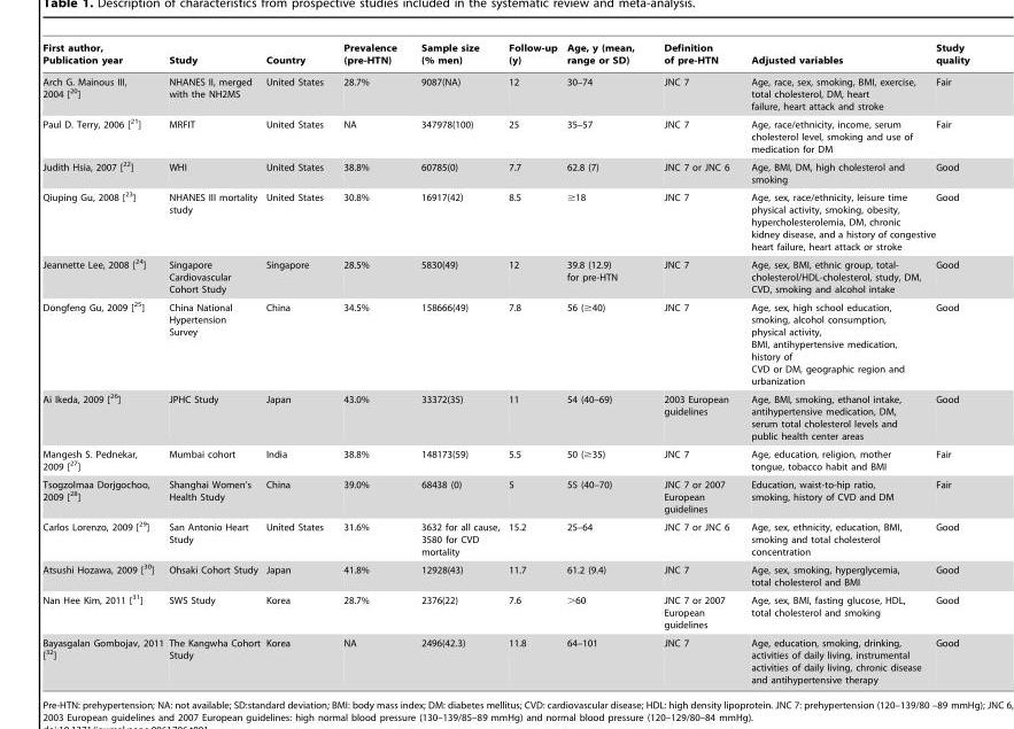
<table><thead><tr><td>First author, Publication year</td><td>Study</td><td>Country</td><td>Prevalence (pre-HTN)</td><td>Sample size (% men)</td><td>Follow-up (y)</td><td>Age, y (mean, range or SD)</td><td>Definition of pre-HTN</td><td>Adjusted variables</td><td>Study quality</td></tr></thead><tbody><tr><td>Arch G. Mainous III, 2004 [<sup>20</sup>]</td><td>NHANES II, merged with the NH2MS</td><td>United States</td><td>28.7%</td><td>9087(NA)</td><td>12</td><td>30–74</td><td>JNC 7</td><td>Age, race, sex, smoking, BMI, exercise, total cholesterol, DM, heart failure, heart attack and stroke</td><td>Fair</td></tr><tr><td>Paul D. Terry, 2006 [<sup>21</sup>]</td><td>MRFIT</td><td>United States</td><td>NA</td><td>347978(100)</td><td>25</td><td>35–57</td><td>JNC 7</td><td>Age, race/ethnicity, income, serum cholesterol level, smoking and use of medication for DM</td><td>Fair</td></tr><tr><td>Judith Hsia, 2007 [<sup>22</sup>]</td><td>WHI</td><td>United States</td><td>38.8%</td><td>60785(0)</td><td>7.7</td><td>62.8 (7)</td><td>JNC 7 or JNC 6</td><td>Age, BMI, DM, high cholesterol and smoking</td><td>Good</td></tr><tr><td>Qiuping Gu, 2008 [<sup>23</sup>]</td><td>NHANES III mortality study</td><td>United States</td><td>30.8%</td><td>16917(42)</td><td>8.5</td><td>≥18</td><td>JNC 7</td><td>Age, sex, race/ethnicity, leisure time physical activity, smoking, obesity, hypercholesterolemia, DM, chronic kidney disease, and a history of congestive heart failure, heart attack or stroke</td><td>Good</td></tr><tr><td>Jeannette Lee, 2008 [<sup>24</sup>]</td><td>Singapore Cardiovascular Cohort Study</td><td>Singapore</td><td>28.5%</td><td>5830(49)</td><td>12</td><td>39.8 (12.9) for pre-HTN</td><td>JNC 7</td><td>Age, sex, BMI, ethnic group, total- cholesterol/HDL-cholesterol, study, DM, CVD, smoking and alcohol intake</td><td>Good</td></tr><tr><td>Dongfeng Gu, 2009 [<sup>25</sup>]</td><td>China National Hypertension Survey</td><td>China</td><td>34.5%</td><td>158666(49)</td><td>7.8</td><td>56 (≥40)</td><td>JNC 7</td><td>Age, sex, high school education, smoking, alcohol consumption, physical activity, BMI, antihypertensive medication, history of CVD or DM, geographic region and urbanization</td><td>Good</td></tr><tr><td>Ai Ikeda, 2009 [<sup>26</sup>]</td><td>JPHC Study</td><td>Japan</td><td>43.0%</td><td>33372(35)</td><td>11</td><td>54 (40–69)</td><td>2003 European guidelines</td><td>Age, BMI, smoking, ethanol intake, antihypertensive medication, DM, serum total cholesterol levels and public health center areas</td><td>Good</td></tr><tr><td>Mangesh S. Pednekar, 2009 [<sup>27</sup>]</td><td>Mumbai cohort</td><td>India</td><td>38.8%</td><td>148173(59)</td><td>5.5</td><td>50 (≥35)</td><td>JNC 7</td><td>Age, education, religion, mother tongue, tobacco habit and BMI</td><td>Fair</td></tr><tr><td>Tsogzolmaa Dorjgochoo, 2009 [<sup>28</sup>]</td><td>Shanghai Women’s Health Study</td><td>China</td><td>39.0%</td><td>68438 (0)</td><td>5</td><td>55 (40–70)</td><td>JNC 7 or 2007 European guidelines</td><td>Education, waist-to-hip ratio, smoking, history of CVD and DM</td><td>Fair</td></tr><tr><td>Carlos Lorenzo, 2009 [<sup>29</sup>]</td><td>San Antonio Heart Study</td><td>United States</td><td>31.6%</td><td>3632 for all cause, 3580 for CVD mortality</td><td>15.2</td><td>25–64</td><td>JNC 7 or JNC 6</td><td>Age, sex, ethnicity, education, BMI, smoking and total cholesterol concentration</td><td>Good</td></tr><tr><td>Atsushi Hozawa, 2009 [<sup>30</sup>]</td><td>Ohsaki Cohort Study</td><td>Japan</td><td>41.8%</td><td>12928(43)</td><td>11.7</td><td>61.2 (9.4)</td><td>JNC 7</td><td>Age, sex, smoking, hyperglycemia, total cholesterol and BMI</td><td>Good</td></tr><tr><td>Nan Hee Kim, 2011 [<sup>31</sup>]</td><td>SWS Study</td><td>Korea</td><td>28.7%</td><td>2376(22)</td><td>7.6</td><td>&gt;60</td><td>JNC 7 or 2007 European guidelines</td><td>Age, sex, BMI, fasting glucose, HDL, total cholesterol and smoking</td><td>Good</td></tr><tr><td>Bayasgalan Gombojav, 2011 [<sup>32</sup>]</td><td>The Kangwha Cohort Study</td><td>Korea</td><td>NA</td><td>2496(42.3)</td><td>11.8</td><td>64–101</td><td>JNC 7</td><td>Age, education, smoking, drinking, activities of daily living, instrumental activities of daily living, chronic disease and antihypertensive therapy</td><td>Good</td></tr></tbody></table>